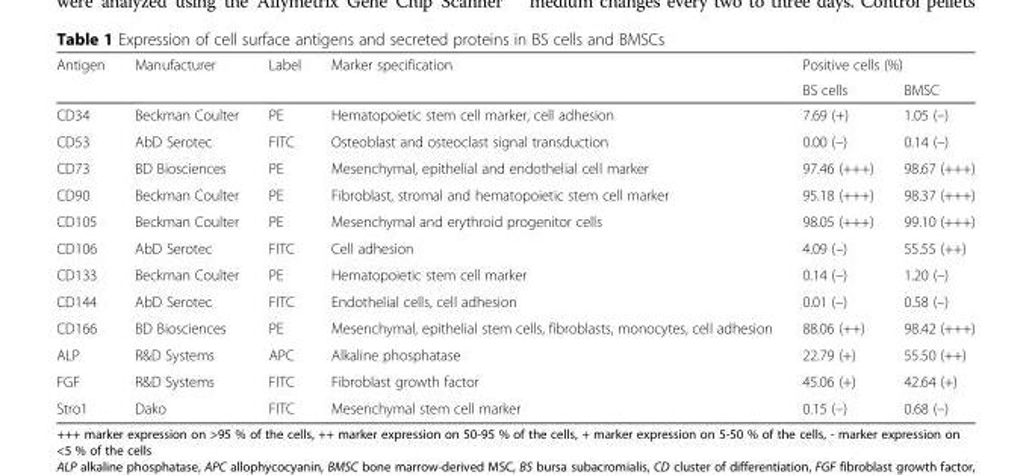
<table><thead><tr><td rowspan="2">Antigen</td><td rowspan="2">Manufacturer</td><td rowspan="2">Label</td><td rowspan="2">Marker specification</td><td colspan="2">Positive cells (%)</td></tr><tr><td>BS cells</td><td>BMSC</td></tr></thead><tbody><tr><td>CD34</td><td>Beckman Coulter</td><td>PE</td><td>Hematopoietic stem cell marker, cell adhesion</td><td>7.69 (+)</td><td>1.05 (–)</td></tr><tr><td>CD53</td><td>AbD Serotec</td><td>FITC</td><td>Osteoblast and osteoclast signal transduction</td><td>0.00 (–)</td><td>0.14 (–)</td></tr><tr><td>CD73</td><td>BD Biosciences</td><td>PE</td><td>Mesenchymal, epithelial and endothelial cell marker</td><td>97.46 (+++)</td><td>98.67 (+++)</td></tr><tr><td>CD90</td><td>Beckman Coulter</td><td>PE</td><td>Fibroblast, stromal and hematopoietic stem cell marker</td><td>95.18 (+++)</td><td>98.37 (+++)</td></tr><tr><td>CD105</td><td>Beckman Coulter</td><td>PE</td><td>Mesenchymal and erythroid progenitor cells</td><td>98.05 (+++)</td><td>99.10 (+++)</td></tr><tr><td>CD106</td><td>AbD Serotec</td><td>FITC</td><td>Cell adhesion</td><td>4.09 (–)</td><td>55.55 (++)</td></tr><tr><td>CD133</td><td>Beckman Coulter</td><td>PE</td><td>Hematopoietic stem cell marker</td><td>0.14 (–)</td><td>1.20 (–)</td></tr><tr><td>CD144</td><td>AbD Serotec</td><td>FITC</td><td>Endothelial cells, cell adhesion</td><td>0.01 (–)</td><td>0.58 (–)</td></tr><tr><td>CD166</td><td>BD Biosciences</td><td>PE</td><td>Mesenchymal, epithelial stem cells, fibroblasts, monocytes, cell adhesion</td><td>88.06 (++)</td><td>98.42 (+++)</td></tr><tr><td>ALP</td><td>R&amp;D Systems</td><td>APC</td><td>Alkaline phosphatase</td><td>22.79 (+)</td><td>55.50 (++)</td></tr><tr><td>FGF</td><td>R&amp;D Systems</td><td>FITC</td><td>Fibroblast growth factor</td><td>45.06 (+)</td><td>42.64 (+)</td></tr><tr><td>Stro1</td><td>Dako</td><td>FITC</td><td>Mesenchymal stem cell marker</td><td>0.15 (–)</td><td>0.68 (–)</td></tr></tbody></table>